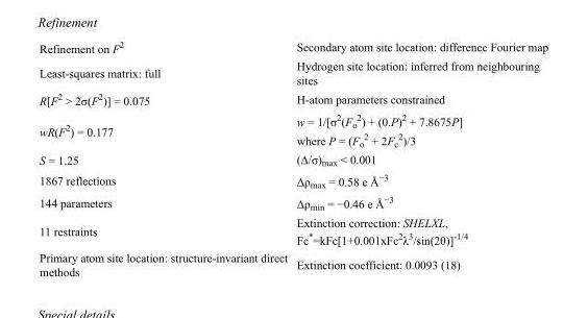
<table><tbody><tr><td>Refinement on F<sup>2</sup></td><td>Secondary atom site location: difference Fourier map</td></tr><tr><td>Least-squares matrix: full</td><td>Hydrogen site location: inferred from neighbouring sites</td></tr><tr><td>R[F<sup>2</sup> &gt; 2σ(F<sup>2</sup>)] = 0.075</td><td>H-atom parameters constrained</td></tr><tr><td>wR(F<sup>2</sup>) = 0.177</td><td>w = 1/[σ<sup>2</sup>(F<sub>o</sub> <sup>2</sup>) + (0.P)<sup>2</sup> + 7.8675P] where P = (F<sub>o</sub> <sup>2</sup> + 2F<sub>c</sub> <sup>2</sup>)/3</td></tr><tr><td>S = 1.25</td><td>(Δ/σ)<sub>max</sub> &lt; 0.001</td></tr><tr><td>1867 reflections</td><td>Δρ<sub>max</sub> = 0.58 e Å<sup>−3</sup></td></tr><tr><td>144 parameters</td><td>Δρ<sub>min</sub> = −0.46 e Å<sup>−3</sup></td></tr><tr><td>11 restraints</td><td>Extinction correction: SHELXL, Fc*=kFc[1+0.001xFc<sup>2</sup>λ<sup>3</sup>/sin(2θ)]<sup>-1/4</sup></td></tr><tr><td>Primary atom site location: structure-invariant direct methods</td><td>Extinction coefficient: 0.0093 (18)</td></tr></tbody></table>